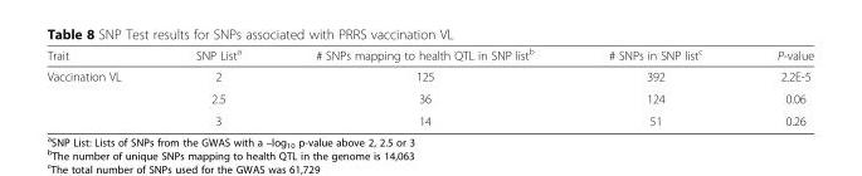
<table><thead><tr><td>Trait</td><td>SNP List<sup>a</sup></td><td># SNPs mapping to health QTL in SNP list<sup>b</sup></td><td># SNPs in SNP list<sup>c</sup></td><td>P-value</td></tr></thead><tbody><tr><td rowspan="3">Vaccination VL</td><td>2</td><td>125</td><td>392</td><td>2.2E-5</td></tr><tr><td>2.5</td><td>36</td><td>124</td><td>0.06</td></tr><tr><td>3</td><td>14</td><td>51</td><td>0.26</td></tr></tbody></table>